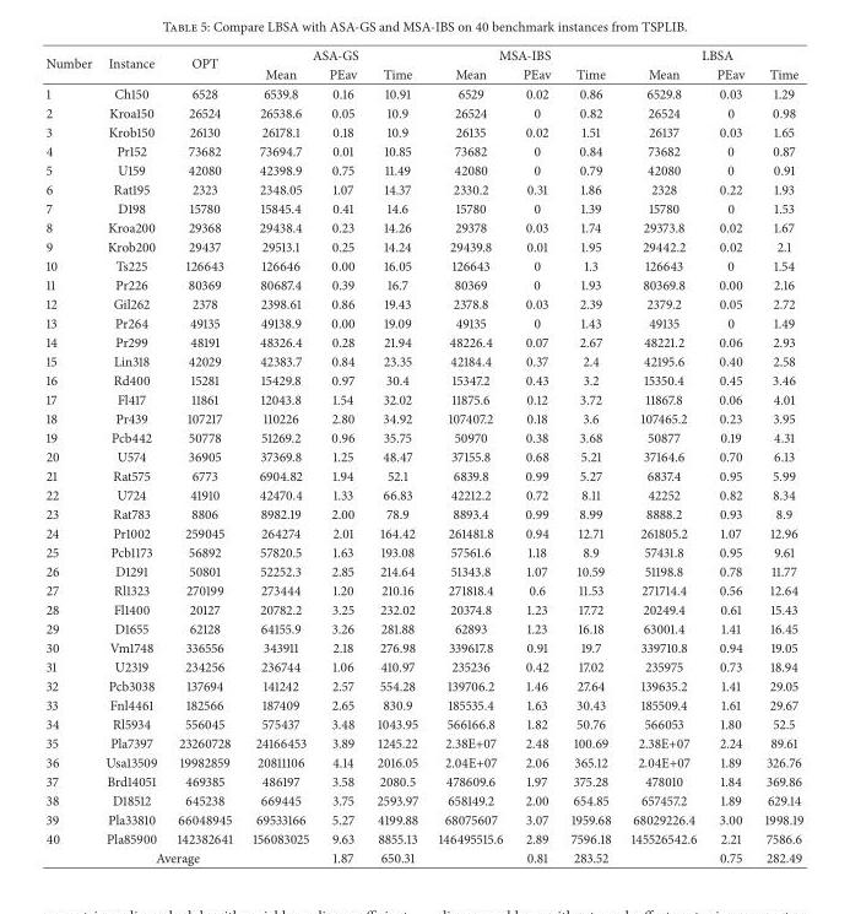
<table><thead><tr><td rowspan="2">Number</td><td rowspan="2">Instance</td><td rowspan="2">OPT</td><td colspan="3">ASA-GS</td><td colspan="3">MSA-IBS</td><td colspan="3">LBSA</td></tr><tr><td>Mean</td><td>PEav</td><td>Time</td><td>Mean</td><td>PEav</td><td>Time</td><td>Mean</td><td>PEav</td><td>Time</td></tr></thead><tbody><tr><td>1</td><td>Ch150</td><td>6528</td><td>6539.8</td><td>0.16</td><td>10.91</td><td>6529</td><td>0.02</td><td>0.86</td><td>6529.8</td><td>0.03</td><td>1.29</td></tr><tr><td>2</td><td>Kroa150</td><td>26524</td><td>26538.6</td><td>0.05</td><td>10.9</td><td>26524</td><td>0</td><td>0.82</td><td>26524</td><td>0</td><td>0.98</td></tr><tr><td>3</td><td>Krob150</td><td>26130</td><td>26178.1</td><td>0.18</td><td>10.9</td><td>26135</td><td>0.02</td><td>1.51</td><td>26137</td><td>0.03</td><td>1.65</td></tr><tr><td>4</td><td>Pr152</td><td>73682</td><td>73694.7</td><td>0.01</td><td>10.85</td><td>73682</td><td>0</td><td>0.84</td><td>73682</td><td>0</td><td>0.87</td></tr><tr><td>5</td><td>U159</td><td>42080</td><td>42398.9</td><td>0.75</td><td>11.49</td><td>42080</td><td>0</td><td>0.79</td><td>42080</td><td>0</td><td>0.91</td></tr><tr><td>6</td><td>Rat195</td><td>2323</td><td>2348.05</td><td>1.07</td><td>14.37</td><td>2330.2</td><td>0.31</td><td>1.86</td><td>2328</td><td>0.22</td><td>1.93</td></tr><tr><td>7</td><td>D198</td><td>15780</td><td>15845.4</td><td>0.41</td><td>14.6</td><td>15780</td><td>0</td><td>1.39</td><td>15780</td><td>0</td><td>1.53</td></tr><tr><td>8</td><td>Kroa200</td><td>29368</td><td>29438.4</td><td>0.23</td><td>14.26</td><td>29378</td><td>0.03</td><td>1.74</td><td>29373.8</td><td>0.02</td><td>1.67</td></tr><tr><td>9</td><td>Krob200</td><td>29437</td><td>29513.1</td><td>0.25</td><td>14.24</td><td>29439.8</td><td>0.01</td><td>1.95</td><td>29442.2</td><td>0.02</td><td>2.1</td></tr><tr><td>10</td><td>Ts225</td><td>126643</td><td>126646</td><td>0.00</td><td>16.05</td><td>126643</td><td>0</td><td>1.3</td><td>126643</td><td>0</td><td>1.54</td></tr><tr><td>11</td><td>Pr226</td><td>80369</td><td>80687.4</td><td>0.39</td><td>16.7</td><td>80369</td><td>0</td><td>1.93</td><td>80369.8</td><td>0.00</td><td>2.16</td></tr><tr><td>12</td><td>Gil262</td><td>2378</td><td>2398.61</td><td>0.86</td><td>19.43</td><td>2378.8</td><td>0.03</td><td>2.39</td><td>2379.2</td><td>0.05</td><td>2.72</td></tr><tr><td>13</td><td>Pr264</td><td>49135</td><td>49138.9</td><td>0.00</td><td>19.09</td><td>49135</td><td>0</td><td>1.43</td><td>49135</td><td>0</td><td>1.49</td></tr><tr><td>14</td><td>Pr299</td><td>48191</td><td>48326.4</td><td>0.28</td><td>21.94</td><td>48226.4</td><td>0.07</td><td>2.67</td><td>48221.2</td><td>0.06</td><td>2.93</td></tr><tr><td>15</td><td>Lin318</td><td>42029</td><td>42383.7</td><td>0.84</td><td>23.35</td><td>42184.4</td><td>0.37</td><td>2.4</td><td>42195.6</td><td>0.40</td><td>2.58</td></tr><tr><td>16</td><td>Rd400</td><td>15281</td><td>15429.8</td><td>0.97</td><td>30.4</td><td>15347.2</td><td>0.43</td><td>3.2</td><td>15350.4</td><td>0.45</td><td>3.46</td></tr><tr><td>17</td><td>Fl417</td><td>11861</td><td>12043.8</td><td>1.54</td><td>32.02</td><td>11875.6</td><td>0.12</td><td>3.72</td><td>11867.8</td><td>0.06</td><td>4.01</td></tr><tr><td>18</td><td>Pr439</td><td>107217</td><td>110226</td><td>2.80</td><td>34.92</td><td>107407.2</td><td>0.18</td><td>3.6</td><td>107465.2</td><td>0.23</td><td>3.95</td></tr><tr><td>19</td><td>Pcb442</td><td>50778</td><td>51269.2</td><td>0.96</td><td>35.75</td><td>50970</td><td>0.38</td><td>3.68</td><td>50877</td><td>0.19</td><td>4.31</td></tr><tr><td>20</td><td>U574</td><td>36905</td><td>37369.8</td><td>1.25</td><td>48.47</td><td>37155.8</td><td>0.68</td><td>5.21</td><td>37164.6</td><td>0.70</td><td>6.13</td></tr><tr><td>21</td><td>Rat575</td><td>6773</td><td>6904.82</td><td>1.94</td><td>52.1</td><td>6839.8</td><td>0.99</td><td>5.27</td><td>6837.4</td><td>0.95</td><td>5.99</td></tr><tr><td>22</td><td>U724</td><td>41910</td><td>42470.4</td><td>1.33</td><td>66.83</td><td>42212.2</td><td>0.72</td><td>8.11</td><td>42252</td><td>0.82</td><td>8.34</td></tr><tr><td>23</td><td>Rat783</td><td>8806</td><td>8982.19</td><td>2.00</td><td>78.9</td><td>8893.4</td><td>0.99</td><td>8.99</td><td>8888.2</td><td>0.93</td><td>8.9</td></tr><tr><td>24</td><td>Pr1002</td><td>259045</td><td>264274</td><td>2.01</td><td>164.42</td><td>261481.8</td><td>0.94</td><td>12.71</td><td>261805.2</td><td>1.07</td><td>12.96</td></tr><tr><td>25</td><td>Pcb1173</td><td>56892</td><td>57820.5</td><td>1.63</td><td>193.08</td><td>57561.6</td><td>1.18</td><td>8.9</td><td>57431.8</td><td>0.95</td><td>9.61</td></tr><tr><td>26</td><td>D1291</td><td>50801</td><td>52252.3</td><td>2.85</td><td>214.64</td><td>51343.8</td><td>1.07</td><td>10.59</td><td>51198.8</td><td>0.78</td><td>11.77</td></tr><tr><td>27</td><td>Rl1323</td><td>270199</td><td>273444</td><td>1.20</td><td>210.16</td><td>271818.4</td><td>0.6</td><td>11.53</td><td>271714.4</td><td>0.56</td><td>12.64</td></tr><tr><td>28</td><td>Fl1400</td><td>20127</td><td>20782.2</td><td>3.25</td><td>232.02</td><td>20374.8</td><td>1.23</td><td>17.72</td><td>20249.4</td><td>0.61</td><td>15.43</td></tr><tr><td>29</td><td>D1655</td><td>62128</td><td>64155.9</td><td>3.26</td><td>281.88</td><td>62893</td><td>1.23</td><td>16.18</td><td>63001.4</td><td>1.41</td><td>16.45</td></tr><tr><td>30</td><td>Vm1748</td><td>336556</td><td>343911</td><td>2.18</td><td>276.98</td><td>339617.8</td><td>0.91</td><td>19.7</td><td>339710.8</td><td>0.94</td><td>19.05</td></tr><tr><td>31</td><td>U2319</td><td>234256</td><td>236744</td><td>1.06</td><td>410.97</td><td>235236</td><td>0.42</td><td>17.02</td><td>235975</td><td>0.73</td><td>18.94</td></tr><tr><td>32</td><td>Pcb3038</td><td>137694</td><td>141242</td><td>2.57</td><td>554.28</td><td>139706.2</td><td>1.46</td><td>27.64</td><td>139635.2</td><td>1.41</td><td>29.05</td></tr><tr><td>33</td><td>Fnl4461</td><td>182566</td><td>187409</td><td>2.65</td><td>830.9</td><td>185535.4</td><td>1.63</td><td>30.43</td><td>185509.4</td><td>1.61</td><td>29.67</td></tr><tr><td>34</td><td>Rl5934</td><td>556045</td><td>575437</td><td>3.48</td><td>1043.95</td><td>566166.8</td><td>1.82</td><td>50.76</td><td>566053</td><td>1.80</td><td>52.5</td></tr><tr><td>35</td><td>Pla7397</td><td>23260728</td><td>24166453</td><td>3.89</td><td>1245.22</td><td>2.38E+07</td><td>2.48</td><td>100.69</td><td>2.38E+07</td><td>2.24</td><td>89.61</td></tr><tr><td>36</td><td>Usa13509</td><td>19982859</td><td>20811106</td><td>4.14</td><td>2016.05</td><td>2.04E+07</td><td>2.06</td><td>365.12</td><td>2.04E+07</td><td>1.89</td><td>326.76</td></tr><tr><td>37</td><td>Brd14051</td><td>469385</td><td>486197</td><td>3.58</td><td>2080.5</td><td>478609.6</td><td>1.97</td><td>375.28</td><td>478010</td><td>1.84</td><td>369.86</td></tr><tr><td>38</td><td>D18512</td><td>645238</td><td>669445</td><td>3.75</td><td>2593.97</td><td>658149.2</td><td>2.00</td><td>654.85</td><td>657457.2</td><td>1.89</td><td>629.14</td></tr><tr><td>39</td><td>Pla33810</td><td>66048945</td><td>69533166</td><td>5.27</td><td>4199.88</td><td>68075607</td><td>3.07</td><td>1959.68</td><td>68029226.4</td><td>3.00</td><td>1998.19</td></tr><tr><td>40</td><td>Pla85900</td><td>142382641</td><td>156083025</td><td>9.63</td><td>8855.13</td><td>146495515.6</td><td>2.89</td><td>7596.18</td><td>145526542.6</td><td>2.21</td><td>7586.6</td></tr><tr><td colspan="4">Average</td><td>1.87</td><td>650.31</td><td></td><td>0.81</td><td>283.52</td><td></td><td>0.75</td><td>282.49</td></tr></tbody></table>